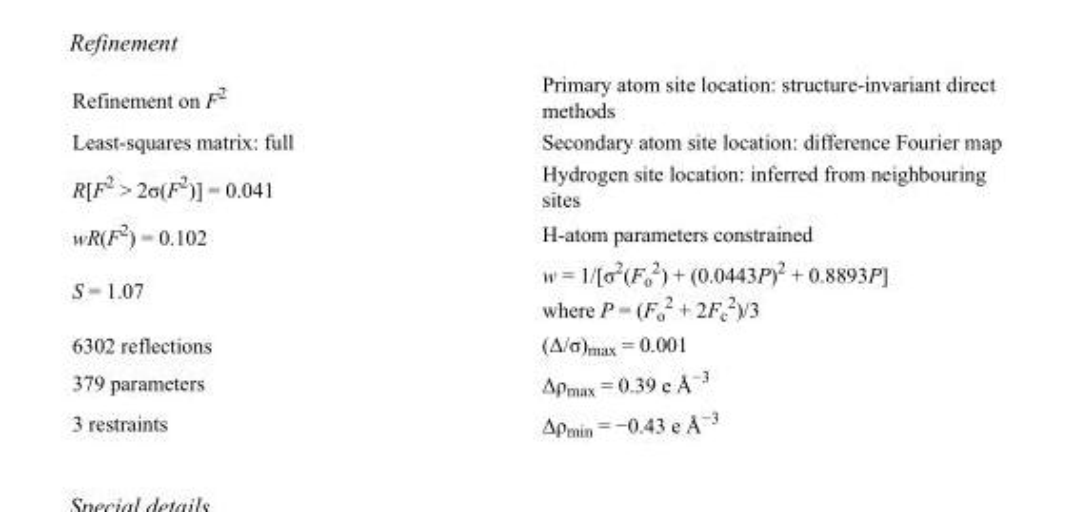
<table><tbody><tr><td>Refinement on F<sup>2</sup></td><td>Primary atom site location: structure-invariant direct methods</td></tr><tr><td>Least-squares matrix: full</td><td>Secondary atom site location: difference Fourier map</td></tr><tr><td>R[F<sup>2</sup> &gt; 2σ(F<sup>2</sup>)] = 0.041</td><td>Hydrogen site location: inferred from neighbouring sites</td></tr><tr><td>wR(F<sup>2</sup>) = 0.102</td><td>H-atom parameters constrained</td></tr><tr><td>S = 1.07</td><td>w = 1/[σ<sup>2</sup>(F<sub>o</sub> <sup>2</sup>) + (0.0443P)<sup>2</sup> + 0.8893P] where P = (F<sub>o</sub> <sup>2</sup> + 2F<sub>c</sub> <sup>2</sup>)/3</td></tr><tr><td>6302 reflections</td><td>(Δ/σ)<sub>max</sub> = 0.001</td></tr><tr><td>379 parameters</td><td>Δρ<sub>max</sub> = 0.39 e Å<sup>−3</sup></td></tr><tr><td>3 restraints</td><td>Δρ<sub>min</sub> = −0.43 e Å<sup>−3</sup></td></tr></tbody></table>